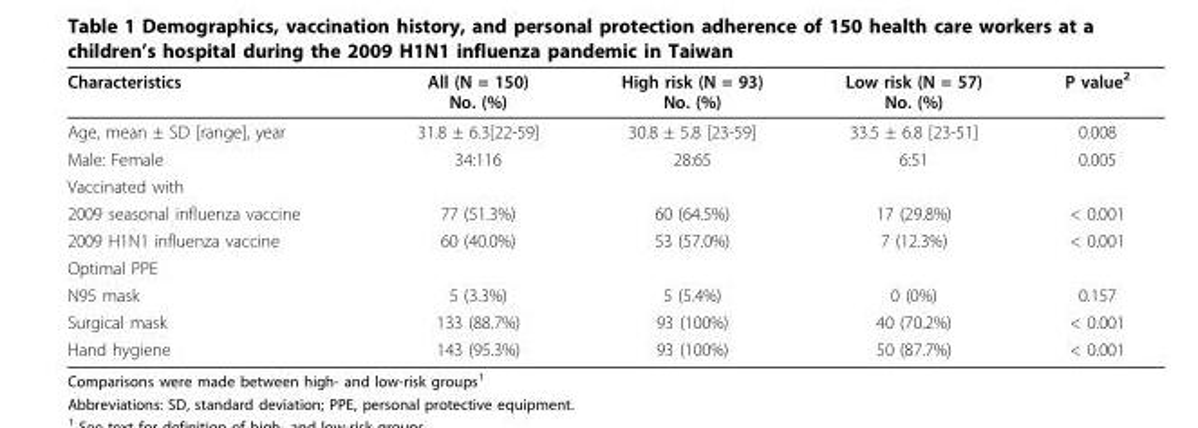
<table><thead><tr><td>Characteristics</td><td>All (N = 150) No. (%)</td><td>High risk (N = 93) No. (%)</td><td>Low risk (N = 57) No. (%)</td><td>P value<sup>2</sup></td></tr></thead><tbody><tr><td>Age, mean ± SD [range], year</td><td>31.8 ± 6.3[22-59]</td><td>30.8 ± 5.8 [23-59]</td><td>33.5 ± 6.8 [23-51]</td><td>0.008</td></tr><tr><td>Male: Female</td><td>34:116</td><td>28:65</td><td>6:51</td><td>0.005</td></tr><tr><td colspan="5">Vaccinated with</td></tr><tr><td>2009 seasonal influenza vaccine</td><td>77 (51.3%)</td><td>60 (64.5%)</td><td>17 (29.8%)</td><td>&lt; 0.001</td></tr><tr><td>2009 H1N1 influenza vaccine</td><td>60 (40.0%)</td><td>53 (57.0%)</td><td>7 (12.3%)</td><td>&lt; 0.001</td></tr><tr><td colspan="5">Optimal PPE</td></tr><tr><td>N95 mask</td><td>5 (3.3%)</td><td>5 (5.4%)</td><td>0 (0%)</td><td>0.157</td></tr><tr><td>Surgical mask</td><td>133 (88.7%)</td><td>93 (100%)</td><td>40 (70.2%)</td><td>&lt; 0.001</td></tr><tr><td>Hand hygiene</td><td>143 (95.3%)</td><td>93 (100%)</td><td>50 (87.7%)</td><td>&lt; 0.001</td></tr></tbody></table>